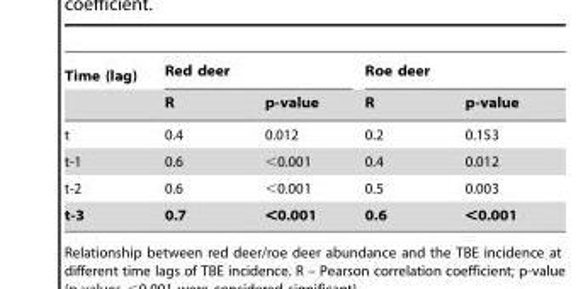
<table><thead><tr><td rowspan="2">Time (lag)</td><td colspan="2">Red deer</td><td colspan="2">Roe deer</td></tr><tr><td>R</td><td>p-value</td><td>R</td><td>p-value</td></tr></thead><tbody><tr><td>t</td><td>0.4</td><td>0.012</td><td>0.2</td><td>0.153</td></tr><tr><td>t-1</td><td>0.6</td><td>&lt;0.001</td><td>0.4</td><td>0.012</td></tr><tr><td>t-2</td><td>0.6</td><td>&lt;0.001</td><td>0.5</td><td>0.003</td></tr><tr><td>t-3</td><td>0.7</td><td>&lt;0.001</td><td>0.6</td><td>&lt;0.001</td></tr></tbody></table>